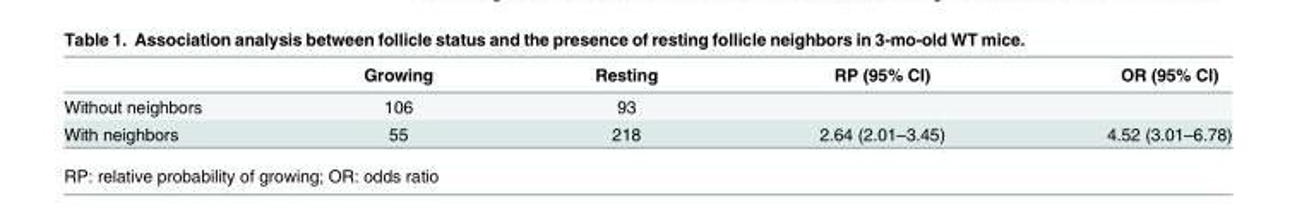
<table><thead><tr><td></td><td>Growing</td><td>Resting</td><td>RP (95% CI)</td><td>OR (95% CI)</td></tr></thead><tbody><tr><td>Without neighbors</td><td>106</td><td>93</td><td></td><td></td></tr><tr><td>With neighbors</td><td>55</td><td>218</td><td>2.64 (2.01–3.45)</td><td>4.52 (3.01–6.78)</td></tr></tbody></table>